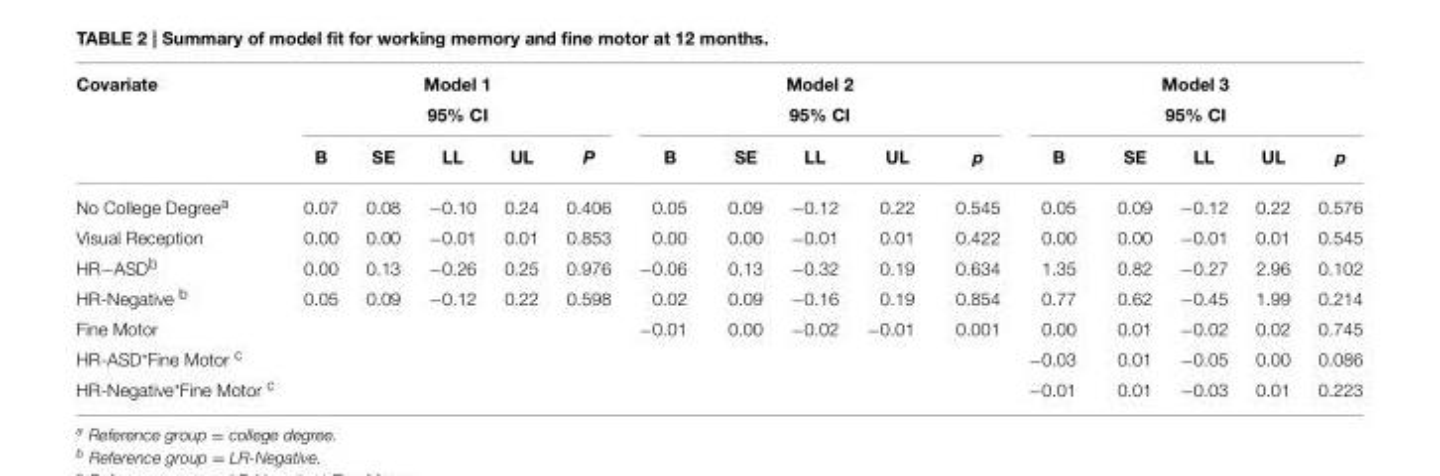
<table><thead><tr><td rowspan="2">Covariate</td><td colspan="5">Model 1 95% CI</td><td colspan="5">Model 2 95% CI</td><td colspan="5">Model 3 95% CI</td></tr><tr><td>B</td><td>SE</td><td>LL</td><td>UL</td><td>P</td><td>B</td><td>SE</td><td>LL</td><td>UL</td><td>p</td><td>B</td><td>SE</td><td>LL</td><td>UL</td><td>p</td></tr></thead><tbody><tr><td>No College Degree<sup>a</sup></td><td>0.07</td><td>0.08</td><td>−0.10</td><td>0.24</td><td>0.406</td><td>0.05</td><td>0.09</td><td>−0.12</td><td>0.22</td><td>0.545</td><td>0.05</td><td>0.09</td><td>−0.12</td><td>0.22</td><td>0.576</td></tr><tr><td>Visual Reception</td><td>0.00</td><td>0.00</td><td>−0.01</td><td>0.01</td><td>0.853</td><td>0.00</td><td>0.00</td><td>−0.01</td><td>0.01</td><td>0.422</td><td>0.00</td><td>0.00</td><td>−0.01</td><td>0.01</td><td>0.545</td></tr><tr><td>HR−ASDb</td><td>0.00</td><td>0.13</td><td>−0.26</td><td>0.25</td><td>0.976</td><td>−0.06</td><td>0.13</td><td>−0.32</td><td>0.19</td><td>0.634</td><td>1.35</td><td>0.82</td><td>−0.27</td><td>2.96</td><td>0.102</td></tr><tr><td>HR-Negative <sup>b</sup></td><td>0.05</td><td>0.09</td><td>−0.12</td><td>0.22</td><td>0.598</td><td>0.02</td><td>0.09</td><td>−0.16</td><td>0.19</td><td>0.854</td><td>0.77</td><td>0.62</td><td>−0.45</td><td>1.99</td><td>0.214</td></tr><tr><td>Fine Motor</td><td></td><td></td><td></td><td></td><td></td><td>−0.01</td><td>0.00</td><td>−0.02</td><td>−0.01</td><td>0.001</td><td>0.00</td><td>0.01</td><td>−0.02</td><td>0.02</td><td>0.745</td></tr><tr><td>HR-ASD*Fine Motor <sup>c</sup></td><td></td><td></td><td></td><td></td><td></td><td></td><td></td><td></td><td></td><td></td><td>−0.03</td><td>0.01</td><td>−0.05</td><td>0.00</td><td>0.086</td></tr><tr><td>HR-Negative*Fine Motor <sup>c</sup></td><td></td><td></td><td></td><td></td><td></td><td></td><td></td><td></td><td></td><td></td><td>−0.01</td><td>0.01</td><td>−0.03</td><td>0.01</td><td>0.223</td></tr></tbody></table>